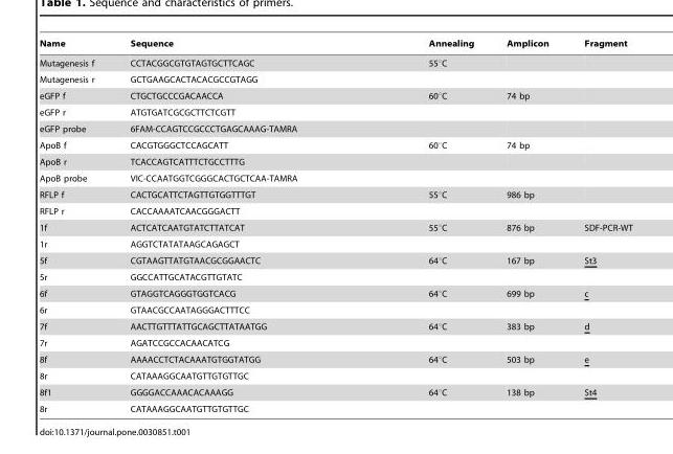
<table><thead><tr><td>Name</td><td>Sequence</td><td>Annealing</td><td>Amplicon</td><td>Fragment</td></tr></thead><tbody><tr><td>Mutagenesis f</td><td>CCTACGGCGTGTAGTGCTTCAGC</td><td>55°C</td><td></td><td></td></tr><tr><td>Mutagenesis r</td><td>GCTGAAGCACTACACGCCGTAGG</td><td></td><td></td><td></td></tr><tr><td>eGFP f</td><td>CTGCTGCCCGACAACCA</td><td>60°C</td><td>74 bp</td><td></td></tr><tr><td>eGFP r</td><td>ATGTGATCGCGCTTCTCGTT</td><td></td><td></td><td></td></tr><tr><td>eGFP probe</td><td>6FAM-CCAGTCCGCCCTGAGCAAAG-TAMRA</td><td></td><td></td><td></td></tr><tr><td>ApoB f</td><td>CACGTGGGCTCCAGCATT</td><td>60°C</td><td>74 bp</td><td></td></tr><tr><td>ApoB r</td><td>TCACCAGTCATTTCTGCCTTTG</td><td></td><td></td><td></td></tr><tr><td>ApoB probe</td><td>VIC-CCAATGGTCGGGCACTGCTCAA-TAMRA</td><td></td><td></td><td></td></tr><tr><td>RFLP f</td><td>CACTGCATTCTAGTTGTGGTTTGT</td><td>55°C</td><td>986 bp</td><td></td></tr><tr><td>RFLP r</td><td>CACCAAAATCAACGGGACTT</td><td></td><td></td><td></td></tr><tr><td>1f</td><td>ACTCATCAATGTATCTTATCAT</td><td>55°C</td><td>876 bp</td><td>SDF-PCR-WT</td></tr><tr><td>1r</td><td>AGGTCTATATAAGCAGAGCT</td><td></td><td></td><td></td></tr><tr><td>5f</td><td>CGTAAGTTATGTAACGCGGAACTC</td><td>64°C</td><td>167 bp</td><td>St3</td></tr><tr><td>5r</td><td>GGCCATTGCATACGTTGTATC</td><td></td><td></td><td></td></tr><tr><td>6f</td><td>GTAGGTCAGGGTGGTCACG</td><td>64°C</td><td>699 bp</td><td>c</td></tr><tr><td>6r</td><td>GTAACGCCAATAGGGACTTTCC</td><td></td><td></td><td></td></tr><tr><td>7f</td><td>AACTTGTTTATTGCAGCTTATAATGG</td><td>64°C</td><td>383 bp</td><td>d</td></tr><tr><td>7r</td><td>AGATCCGCCACAACATCG</td><td></td><td></td><td></td></tr><tr><td>8f</td><td>AAAACCTCTACAAATGTGGTATGG</td><td>64°C</td><td>503 bp</td><td>e</td></tr><tr><td>8r</td><td>CATAAAGGCAATGTTGTGTTGC</td><td></td><td></td><td></td></tr><tr><td>8f1</td><td>GGGGACCAAACACAAAGG</td><td>64°C</td><td>138 bp</td><td>St4</td></tr><tr><td>8r</td><td>CATAAAGGCAATGTTGTGTTGC</td><td></td><td></td><td></td></tr></tbody></table>